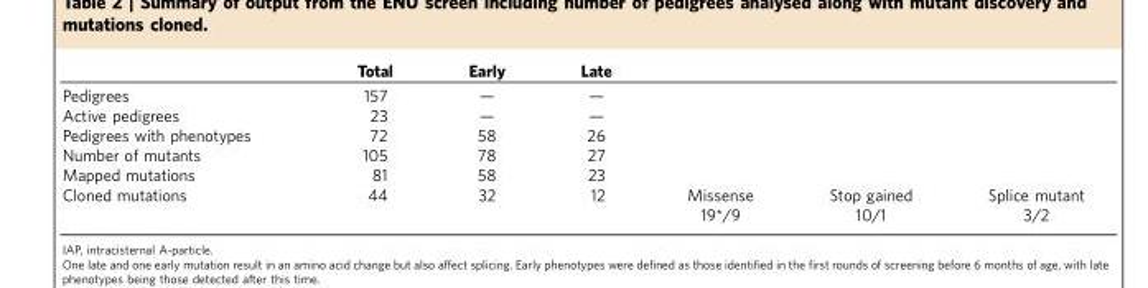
<table><thead><tr><td></td><td>Total</td><td>Early</td><td>Late</td><td></td><td></td><td></td></tr></thead><tbody><tr><td>Pedigrees</td><td>157</td><td>—</td><td>—</td><td></td><td></td><td></td></tr><tr><td>Active pedigrees</td><td>23</td><td>—</td><td>—</td><td></td><td></td><td></td></tr><tr><td>Pedigrees with phenotypes</td><td>72</td><td>58</td><td>26</td><td></td><td></td><td></td></tr><tr><td>Number of mutants</td><td>105</td><td>78</td><td>27</td><td></td><td></td><td></td></tr><tr><td>Mapped mutations</td><td>81</td><td>58</td><td>23</td><td></td><td></td><td></td></tr><tr><td rowspan="2">Cloned mutations</td><td>44</td><td>32</td><td>12</td><td>Missense</td><td>Stop gained</td><td>Splice mutant</td></tr><tr><td></td><td></td><td></td><td>19*/9</td><td>10/1</td><td>3/2</td></tr></tbody></table>